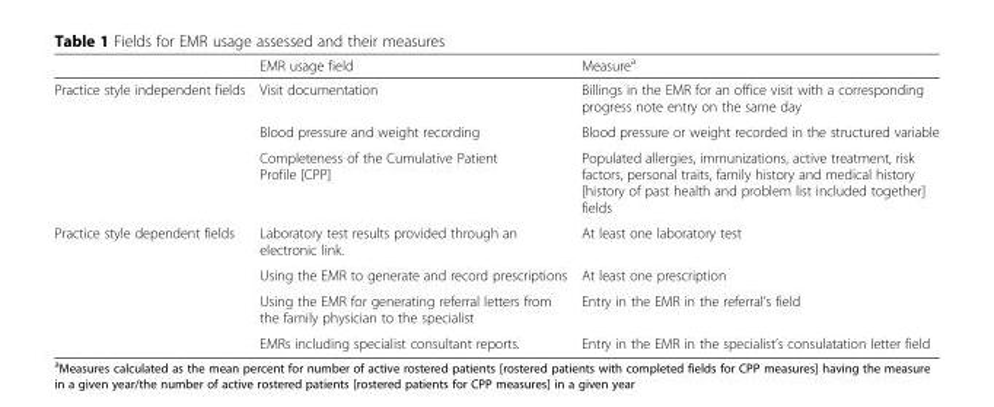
<table><thead><tr><td></td><td>EMR usage field</td><td>Measure<sup>a</sup></td></tr></thead><tbody><tr><td rowspan="3">Practice style independent fields</td><td>Visit documentation</td><td>Billings in the EMR for an office visit with a corresponding progress note entry on the same day</td></tr><tr><td>Blood pressure and weight recording</td><td>Blood pressure or weight recorded in the structured variable</td></tr><tr><td>Completeness of the Cumulative Patient Profile [CPP]</td><td>Populated allergies, immunizations, active treatment, risk factors, personal traits, family history and medical history [history of past health and problem list included together] fields</td></tr><tr><td rowspan="4">Practice style dependent fields</td><td>Laboratory test results provided through an electronic link.</td><td>At least one laboratory test</td></tr><tr><td>Using the EMR to generate and record prescriptions</td><td>At least one prescription</td></tr><tr><td>Using the EMR for generating referral letters from the family physician to the specialist</td><td>Entry in the EMR in the referral’s field</td></tr><tr><td>EMRs including specialist consultant reports.</td><td>Entry in the EMR in the specialist’s consulatation letter field</td></tr></tbody></table>